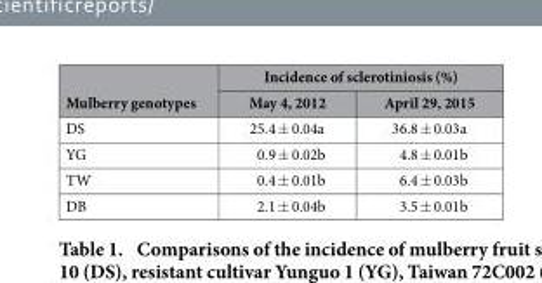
<table><thead><tr><td rowspan="2">Mulberry genotypes</td><td colspan="2">Incidence of sclerotiniosis (%)</td></tr><tr><td>May 4, 2012</td><td>April 29, 2015</td></tr></thead><tbody><tr><td>DS</td><td>25.4 ± 0.04a</td><td>36.8 ± 0.03a</td></tr><tr><td>YG</td><td>0.9 ± 0.02b</td><td>4.8 ± 0.01b</td></tr><tr><td>TW</td><td>0.4 ± 0.01b</td><td>6.4 ± 0.03b</td></tr><tr><td>DB</td><td>2.1 ± 0.04b</td><td>3.5 ± 0.01b</td></tr></tbody></table>